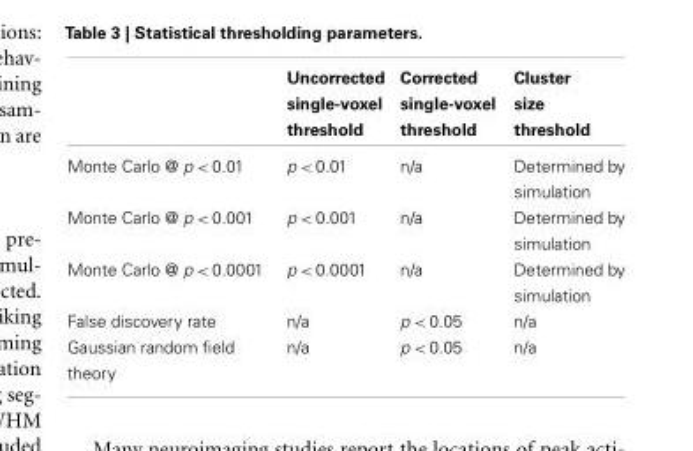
<table><thead><tr><td></td><td>Uncorrected single-voxel threshold</td><td>Corrected single-voxel threshold</td><td>Cluster size threshold</td></tr></thead><tbody><tr><td>Monte Carlo @ p &lt; 0.01</td><td>p &lt; 0.01</td><td>n/a</td><td>Determined by simulation</td></tr><tr><td>Monte Carlo @ p &lt; 0.001</td><td>p &lt; 0.001</td><td>n/a</td><td>Determined by simulation</td></tr><tr><td>Monte Carlo @ p &lt; 0.0001</td><td>p &lt; 0.0001</td><td>n/a</td><td>Determined by simulation</td></tr><tr><td>False discovery rate</td><td>n/a</td><td>p &lt; 0.05</td><td>n/a</td></tr><tr><td>Gaussian random field theory</td><td>n/a</td><td>p &lt; 0.05</td><td>n/a</td></tr></tbody></table>